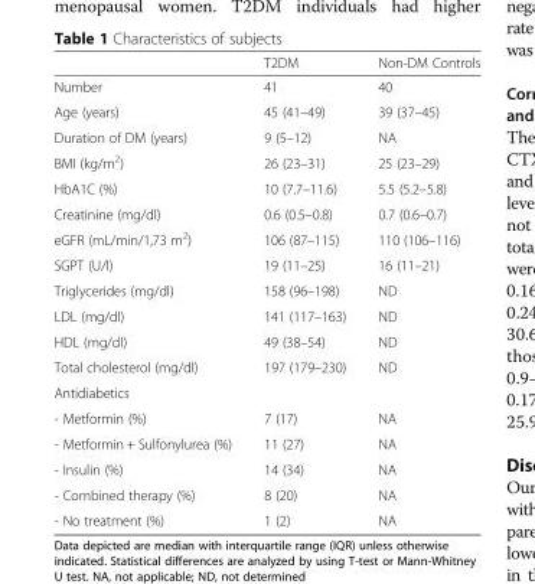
<table><thead><tr><td></td><td>T2DM</td><td>Non-DM Controls</td></tr></thead><tbody><tr><td>Number</td><td>41</td><td>40</td></tr><tr><td>Age (years)</td><td>45 (41–49)</td><td>39 (37–45)</td></tr><tr><td>Duration of DM (years)</td><td>9 (5–12)</td><td>NA</td></tr><tr><td>BMI (kg/m<sup>2</sup>)</td><td>26 (23–31)</td><td>25 (23–29)</td></tr><tr><td>HbA1C (%)</td><td>10 (7.7–11.6)</td><td>5.5 (5.2–5.8)</td></tr><tr><td>Creatinine (mg/dl)</td><td>0.6 (0.5–0.8)</td><td>0.7 (0.6–0.7)</td></tr><tr><td>eGFR (mL/min/1,73 m<sup>2</sup>)</td><td>106 (87–115)</td><td>110 (106–116)</td></tr><tr><td>SGPT (U/l)</td><td>19 (11–25)</td><td>16 (11–21)</td></tr><tr><td>Triglycerides (mg/dl)</td><td>158 (96–198)</td><td>ND</td></tr><tr><td>LDL (mg/dl)</td><td>141 (117–163)</td><td>ND</td></tr><tr><td>HDL (mg/dl)</td><td>49 (38–54)</td><td>ND</td></tr><tr><td>Total cholesterol (mg/dl)</td><td>197 (179–230)</td><td>ND</td></tr><tr><td colspan="3">Antidiabetics</td></tr><tr><td>- Metformin (%)</td><td>7 (17)</td><td>NA</td></tr><tr><td>- Metformin + Sulfonylurea (%)</td><td>11 (27)</td><td>NA</td></tr><tr><td>- Insulin (%)</td><td>14 (34)</td><td>NA</td></tr><tr><td>- Combined therapy (%)</td><td>8 (20)</td><td>NA</td></tr><tr><td>- No treatment (%)</td><td>1 (2)</td><td>NA</td></tr></tbody></table>